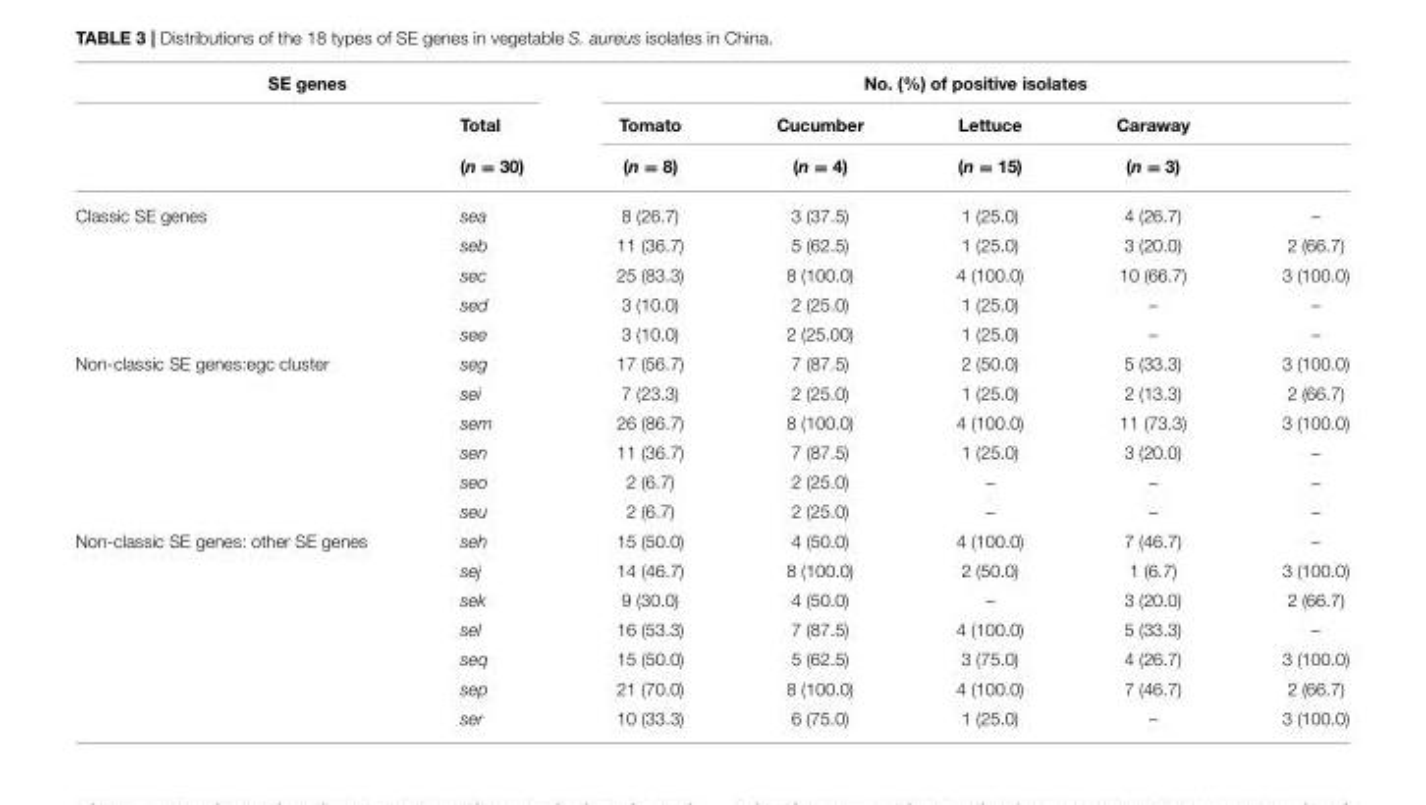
<table><thead><tr><td colspan="2">SE genes</td><td colspan="5">No. (%) of positive isolates</td></tr><tr><td rowspan="2"></td><td rowspan="2">Total (n = 30)</td><td rowspan="2">Tomato (n = 8)</td><td rowspan="2">Cucumber (n = 4)</td><td rowspan="2">Lettuce (n = 15)</td><td rowspan="2">Caraway (n = 3)</td><td rowspan="2"></td></tr><tr></tr></thead><tbody><tr><td rowspan="5">Classic SE genes</td><td>sea</td><td>8 (26.7)</td><td>3 (37.5)</td><td>1 (25.0)</td><td>4 (26.7)</td><td>–</td></tr><tr><td>seb</td><td>11 (36.7)</td><td>5 (62.5)</td><td>1 (25.0)</td><td>3 (20.0)</td><td>2 (66.7)</td></tr><tr><td>sec</td><td>25 (83.3)</td><td>8 (100.0)</td><td>4 (100.0)</td><td>10 (66.7)</td><td>3 (100.0)</td></tr><tr><td>sed</td><td>3 (10.0)</td><td>2 (25.0)</td><td>1 (25.0)</td><td>–</td><td>–</td></tr><tr><td>see</td><td>3 (10.0)</td><td>2 (25.00)</td><td>1 (25.0)</td><td>–</td><td>–</td></tr><tr><td rowspan="6">Non-classic SE genes:egc cluster</td><td>seg</td><td>17 (56.7)</td><td>7 (87.5)</td><td>2 (50.0)</td><td>5 (33.3)</td><td>3 (100.0)</td></tr><tr><td>sei</td><td>7 (23.3)</td><td>2 (25.0)</td><td>1 (25.0)</td><td>2 (13.3)</td><td>2 (66.7)</td></tr><tr><td>sem</td><td>26 (86.7)</td><td>8 (100.0)</td><td>4 (100.0)</td><td>11 (73.3)</td><td>3 (100.0)</td></tr><tr><td>sen</td><td>11 (36.7)</td><td>7 (87.5)</td><td>1 (25.0)</td><td>3 (20.0)</td><td>–</td></tr><tr><td>seo</td><td>2 (6.7)</td><td>2 (25.0)</td><td>–</td><td>–</td><td>–</td></tr><tr><td>seu</td><td>2 (6.7)</td><td>2 (25.0)</td><td>–</td><td>–</td><td>–</td></tr><tr><td rowspan="7">Non-classic SE genes: other SE genes</td><td>seh</td><td>15 (50.0)</td><td>4 (50.0)</td><td>4 (100.0)</td><td>7 (46.7)</td><td>–</td></tr><tr><td>sej</td><td>14 (46.7)</td><td>8 (100.0)</td><td>2 (50.0)</td><td>1 (6.7)</td><td>3 (100.0)</td></tr><tr><td>sek</td><td>9 (30.0)</td><td>4 (50.0)</td><td>–</td><td>3 (20.0)</td><td>2 (66.7)</td></tr><tr><td>sel</td><td>16 (53.3)</td><td>7 (87.5)</td><td>4 (100.0)</td><td>5 (33.3)</td><td>–</td></tr><tr><td>seq</td><td>15 (50.0)</td><td>5 (62.5)</td><td>3 (75.0)</td><td>4 (26.7)</td><td>3 (100.0)</td></tr><tr><td>sep</td><td>21 (70.0)</td><td>8 (100.0)</td><td>4 (100.0)</td><td>7 (46.7)</td><td>2 (66.7)</td></tr><tr><td>ser</td><td>10 (33.3)</td><td>6 (75.0)</td><td>1 (25.0)</td><td>–</td><td>3 (100.0)</td></tr></tbody></table>